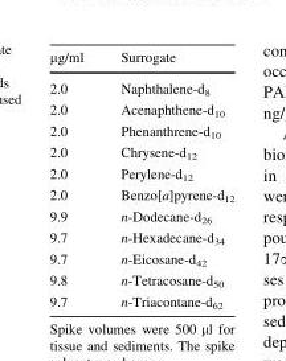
<table><thead><tr><td>μg/ml</td><td>Surrogate</td></tr></thead><tbody><tr><td>2.0</td><td>Naphthalene-d<sub>8</sub></td></tr><tr><td>2.0</td><td>Acenaphthene-d<sub>10</sub></td></tr><tr><td>2.0</td><td>Phenanthrene-d<sub>10</sub></td></tr><tr><td>2.0</td><td>Chrysene-d<sub>12</sub></td></tr><tr><td>2.0</td><td>Perylene-d<sub>12</sub></td></tr><tr><td>2.0</td><td>Benzo[a]pyrene-d<sub>12</sub></td></tr><tr><td>9.9</td><td>n-Dodecane-d<sub>26</sub></td></tr><tr><td>9.7</td><td>n-Hexadecane-d<sub>34</sub></td></tr><tr><td>9.7</td><td>n-Eicosane-d<sub>42</sub></td></tr><tr><td>9.8</td><td>n-Tetracosane-d<sub>50</sub></td></tr><tr><td>9.7</td><td>n-Triacontane-d<sub>62</sub></td></tr></tbody></table>